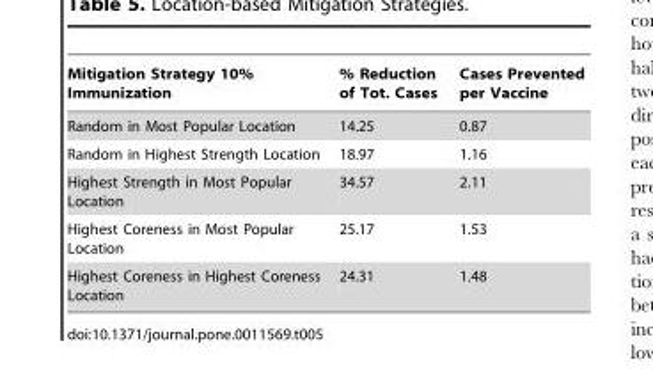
<table><thead><tr><td>Mitigation Strategy 10% Immunization</td><td>% Reduction of Tot. Cases</td><td>Cases Prevented per Vaccine</td></tr></thead><tbody><tr><td>Random in Most Popular Location</td><td>14.25</td><td>0.87</td></tr><tr><td>Random in Highest Strength Location</td><td>18.97</td><td>1.16</td></tr><tr><td>Highest Strength in Most Popular Location</td><td>34.57</td><td>2.11</td></tr><tr><td>Highest Coreness in Most Popular Location</td><td>25.17</td><td>1.53</td></tr><tr><td>Highest Coreness in Highest Coreness Location</td><td>24.31</td><td>1.48</td></tr></tbody></table>